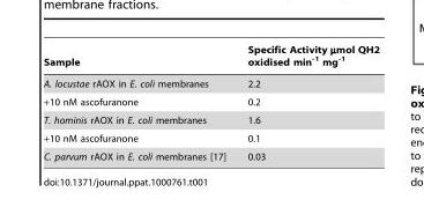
<table><thead><tr><td>Sample</td><td>Specific Activity µmol QH2 oxidised min<sup>-1</sup> mg<sup>-1</sup></td></tr></thead><tbody><tr><td>A. locustae rAOX in E. coli membranes</td><td>2.2</td></tr><tr><td>+10 nM ascofuranone</td><td>0.2</td></tr><tr><td>T. hominis rAOX in E. coli membranes</td><td>1.6</td></tr><tr><td>+10 nM ascofuranone</td><td>0.1</td></tr><tr><td>C. parvum rAOX in E. coli membranes [17]</td><td>0.03</td></tr></tbody></table>